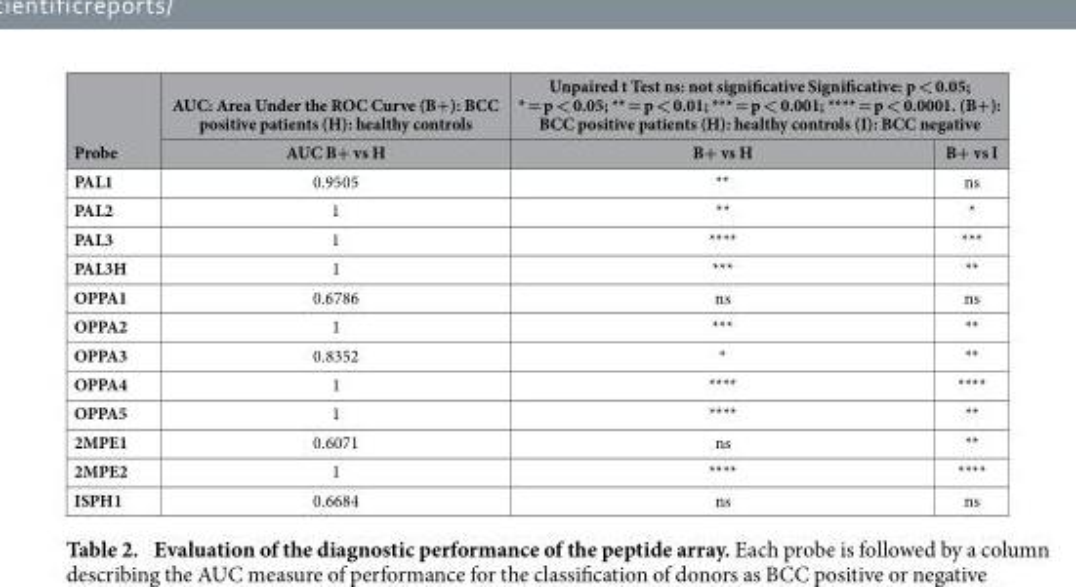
<table><thead><tr><td rowspan="2">Probe</td><td rowspan="2">AUC: Area Under the ROC Curve (B+): BCC positive patients (H): healthy controls AUC B+ vs H</td><td colspan="2">Unpaired t Test ns: not significative Significative: p &lt; 0.05; * = p &lt; 0.05; ** = p &lt; 0.01; *** = p &lt; 0.001; **** = p &lt; 0.0001. (B+): BCC positive patients (H): healthy controls (I): BCC negative</td></tr><tr><td>B+ vs H</td><td>B+ vs I</td></tr></thead><tbody><tr><td>PAL1</td><td>0.9505</td><td>**</td><td>ns</td></tr><tr><td>PAL2</td><td>1</td><td>**</td><td>*</td></tr><tr><td>PAL3</td><td>1</td><td>****</td><td>***</td></tr><tr><td>PAL3H</td><td>1</td><td>***</td><td>**</td></tr><tr><td>OPPA1</td><td>0.6786</td><td>ns</td><td>ns</td></tr><tr><td>OPPA2</td><td>1</td><td>***</td><td>**</td></tr><tr><td>OPPA3</td><td>0.8352</td><td>*</td><td>**</td></tr><tr><td>OPPA4</td><td>1</td><td>****</td><td>****</td></tr><tr><td>OPPA5</td><td>1</td><td>****</td><td>**</td></tr><tr><td>2MPE1</td><td>0.6071</td><td>ns</td><td>**</td></tr><tr><td>2MPE2</td><td>1</td><td>****</td><td>****</td></tr><tr><td>ISPH1</td><td>0.6684</td><td>ns</td><td>ns</td></tr></tbody></table>